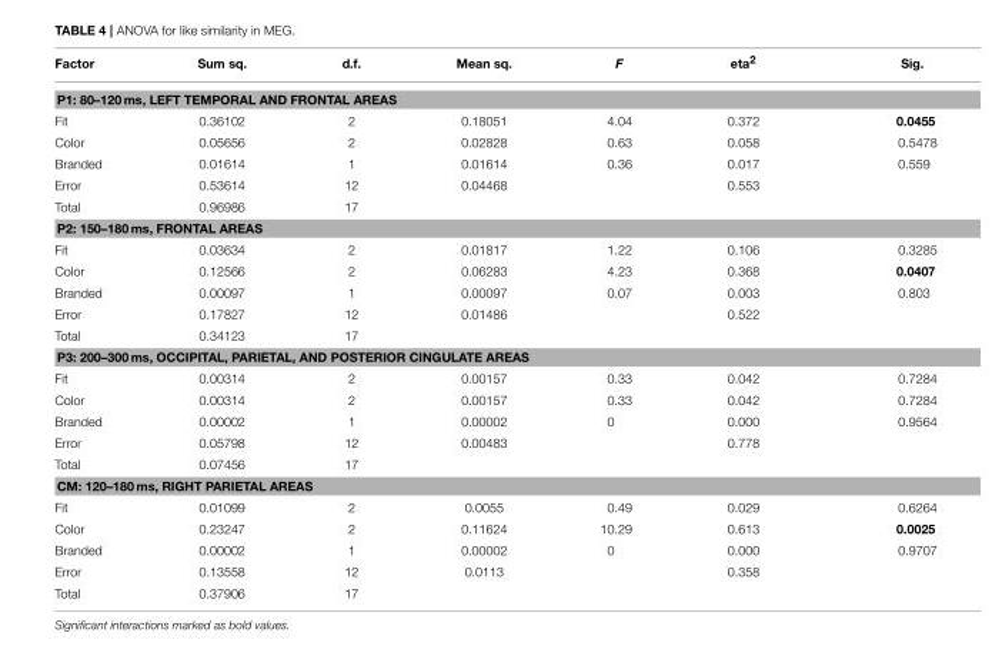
<table><thead><tr><td>Factor</td><td>Sum sq.</td><td>d.f.</td><td>Mean sq.</td><td>F</td><td>eta<sup>2</sup></td><td>Sig.</td></tr></thead><tbody><tr><td colspan="7">P1: 80–120 ms, LEFT TEMPORAL AND FRONTAL AREAS</td></tr><tr><td>Fit</td><td>0.36102</td><td>2</td><td>0.18051</td><td>4.04</td><td>0.372</td><td>0.0455</td></tr><tr><td>Color</td><td>0.05656</td><td>2</td><td>0.02828</td><td>0.63</td><td>0.058</td><td>0.5478</td></tr><tr><td>Branded</td><td>0.01614</td><td>1</td><td>0.01614</td><td>0.36</td><td>0.017</td><td>0.559</td></tr><tr><td>Error</td><td>0.53614</td><td>12</td><td>0.04468</td><td></td><td>0.553</td><td></td></tr><tr><td>Total</td><td>0.96986</td><td>17</td><td></td><td></td><td></td><td></td></tr><tr><td colspan="7">P2: 150–180 ms, FRONTAL AREAS</td></tr><tr><td>Fit</td><td>0.03634</td><td>2</td><td>0.01817</td><td>1.22</td><td>0.106</td><td>0.3285</td></tr><tr><td>Color</td><td>0.12566</td><td>2</td><td>0.06283</td><td>4.23</td><td>0.368</td><td>0.0407</td></tr><tr><td>Branded</td><td>0.00097</td><td>1</td><td>0.00097</td><td>0.07</td><td>0.003</td><td>0.803</td></tr><tr><td>Error</td><td>0.17827</td><td>12</td><td>0.01486</td><td></td><td>0.522</td><td></td></tr><tr><td>Total</td><td>0.34123</td><td>17</td><td></td><td></td><td></td><td></td></tr><tr><td colspan="7">P3: 200–300 ms, OCCIPITAL, PARIETAL, AND POSTERIOR CINGULATE AREAS</td></tr><tr><td>Fit</td><td>0.00314</td><td>2</td><td>0.00157</td><td>0.33</td><td>0.042</td><td>0.7284</td></tr><tr><td>Color</td><td>0.00314</td><td>2</td><td>0.00157</td><td>0.33</td><td>0.042</td><td>0.7284</td></tr><tr><td>Branded</td><td>0.00002</td><td>1</td><td>0.00002</td><td>0</td><td>0.000</td><td>0.9564</td></tr><tr><td>Error</td><td>0.05798</td><td>12</td><td>0.00483</td><td></td><td>0.778</td><td></td></tr><tr><td>Total</td><td>0.07456</td><td>17</td><td></td><td></td><td></td><td></td></tr><tr><td colspan="7">CM: 120–180 ms, RIGHT PARIETAL AREAS</td></tr><tr><td>Fit</td><td>0.01099</td><td>2</td><td>0.0055</td><td>0.49</td><td>0.029</td><td>0.6264</td></tr><tr><td>Color</td><td>0.23247</td><td>2</td><td>0.11624</td><td>10.29</td><td>0.613</td><td>0.0025</td></tr><tr><td>Branded</td><td>0.00002</td><td>1</td><td>0.00002</td><td>0</td><td>0.000</td><td>0.9707</td></tr><tr><td>Error</td><td>0.13558</td><td>12</td><td>0.0113</td><td></td><td>0.358</td><td></td></tr><tr><td>Total</td><td>0.37906</td><td>17</td><td></td><td></td><td></td><td></td></tr></tbody></table>